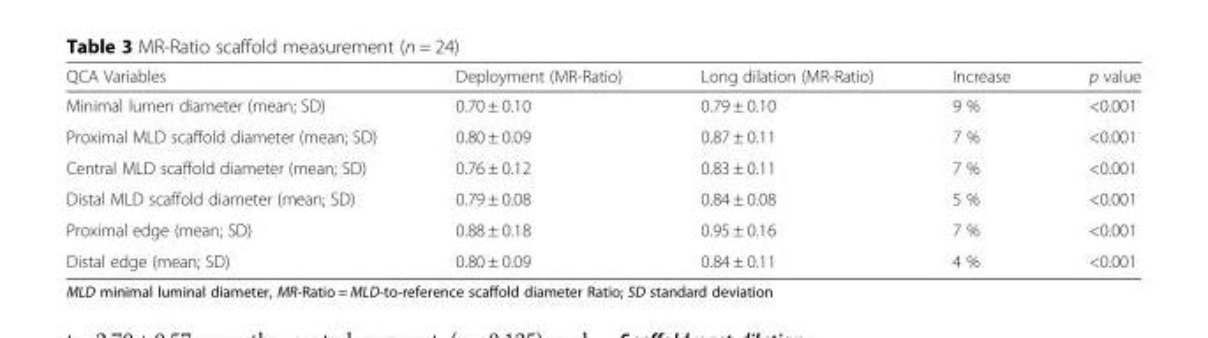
<table><thead><tr><td>QCA Variables</td><td>Deployment (MR-Ratio)</td><td>Long dilation (MR-Ratio)</td><td>Increase</td><td>p value</td></tr></thead><tbody><tr><td>Minimal lumen diameter (mean; SD)</td><td>0.70 ± 0.10</td><td>0.79 ± 0.10</td><td>9 %</td><td>&lt;0.001</td></tr><tr><td>Proximal MLD scaffold diameter (mean; SD)</td><td>0.80 ± 0.09</td><td>0.87 ± 0.11</td><td>7 %</td><td>&lt;0.001</td></tr><tr><td>Central MLD scaffold diameter (mean; SD)</td><td>0.76 ± 0.12</td><td>0.83 ± 0.11</td><td>7 %</td><td>&lt;0.001</td></tr><tr><td>Distal MLD scaffold diameter (mean; SD)</td><td>0.79 ± 0.08</td><td>0.84 ± 0.08</td><td>5 %</td><td>&lt;0.001</td></tr><tr><td>Proximal edge (mean; SD)</td><td>0.88 ± 0.18</td><td>0.95 ± 0.16</td><td>7 %</td><td>&lt;0.001</td></tr><tr><td>Distal edge (mean; SD)</td><td>0.80 ± 0.09</td><td>0.84 ± 0.11</td><td>4 %</td><td>&lt;0.001</td></tr></tbody></table>